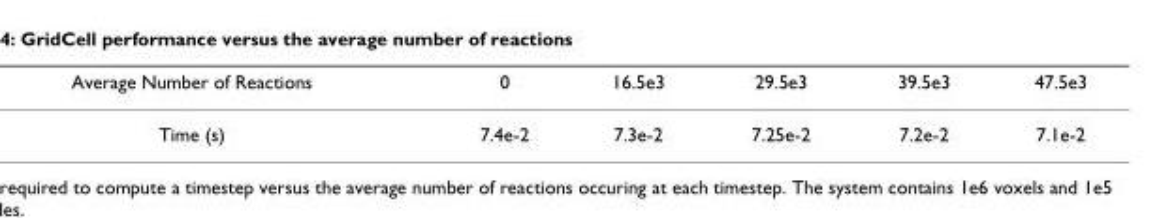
<table><thead><tr><td>Average Number of Reactions</td><td>0</td><td>16.5e3</td><td>29.5e3</td><td>39.5e3</td><td>47.5e3</td></tr></thead><tbody><tr><td>Time (s)</td><td>7.4e-2</td><td>7.3e-2</td><td>7.25e-2</td><td>7.2e-2</td><td>7.1e-2</td></tr></tbody></table>